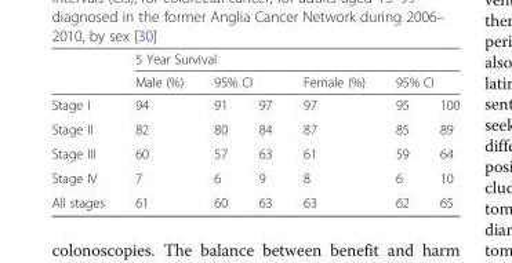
<table><thead><tr><td rowspan="3">Stage I</td><td colspan="6">5 Year Survival</td></tr><tr><td rowspan="2">Male (%) 94</td><td colspan="2">95% CI</td><td rowspan="2">Female (%) 97</td><td colspan="2">95% CI</td></tr><tr><td>91</td><td>97</td><td>95</td><td>100</td></tr></thead><tbody><tr><td>Stage II</td><td>82</td><td>80</td><td>84</td><td>87</td><td>85</td><td>89</td></tr><tr><td>Stage III</td><td>60</td><td>57</td><td>63</td><td>61</td><td>59</td><td>64</td></tr><tr><td>Stage IV</td><td>7</td><td>6</td><td>9</td><td>8</td><td>6</td><td>10</td></tr><tr><td>All stages</td><td>61</td><td>60</td><td>63</td><td>63</td><td>62</td><td>65</td></tr></tbody></table>